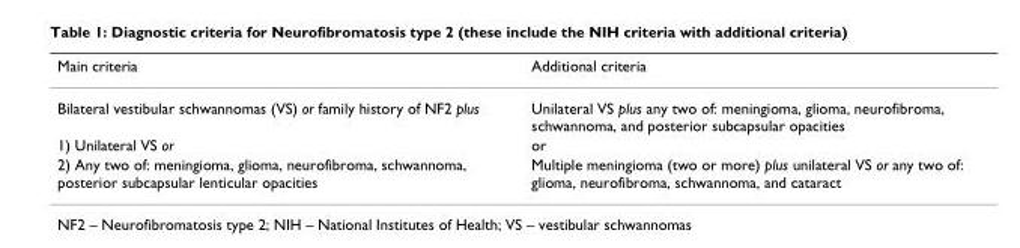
<table><thead><tr><td>Main criteria</td><td>Additional criteria</td></tr></thead><tbody><tr><td>Bilateral vestibular schwannomas (VS) or family history of NF2 plus</td><td>Unilateral VS plus any two of: meningioma, glioma, neurofibroma, schwannoma, and posterior subcapsular opacities</td></tr><tr><td>1) Unilateral VS or</td><td>or</td></tr><tr><td>2) Any two of: meningioma, glioma, neurofibroma, schwannoma, posterior subcapsular lenticular opacities</td><td>Multiple meningioma (two or more) plus unilateral VS or any two of: glioma, neurofibroma, schwannoma, and cataract</td></tr></tbody></table>